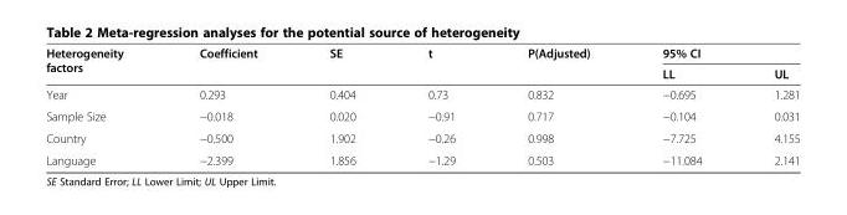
<table><thead><tr><td rowspan="2">Heterogeneity factors</td><td rowspan="2">Coefficient</td><td rowspan="2">SE</td><td rowspan="2">t</td><td rowspan="2">P(Adjusted)</td><td colspan="2">95% CI</td></tr><tr><td>LL</td><td>UL</td></tr></thead><tbody><tr><td>Year</td><td>0.293</td><td>0.404</td><td>0.73</td><td>0.832</td><td>−0.695</td><td>1.281</td></tr><tr><td>Sample Size</td><td>−0.018</td><td>0.020</td><td>−0.91</td><td>0.717</td><td>−0.104</td><td>0.031</td></tr><tr><td>Country</td><td>−0.500</td><td>1.902</td><td>−0.26</td><td>0.998</td><td>−7.725</td><td>4.155</td></tr><tr><td>Language</td><td>−2.399</td><td>1.856</td><td>−1.29</td><td>0.503</td><td>−11.084</td><td>2.141</td></tr></tbody></table>